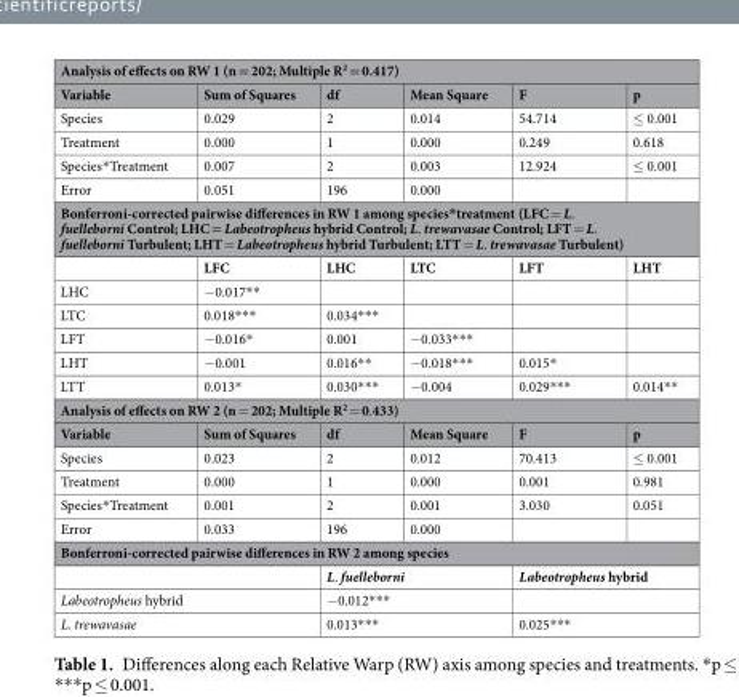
<table><thead><tr><td colspan="6">Analysis of effects on RW 1 (n = 202; Multiple R<sup>2</sup> = 0.417)</td></tr><tr><td>Variable</td><td>Sum of Squares</td><td>df</td><td>Mean Square</td><td>F</td><td>p</td></tr></thead><tbody><tr><td>Species</td><td>0.029</td><td>2</td><td>0.014</td><td>54.714</td><td>≤ 0.001</td></tr><tr><td>Treatment</td><td>0.000</td><td>1</td><td>0.000</td><td>0.249</td><td>0.618</td></tr><tr><td>Species*Treatment</td><td>0.007</td><td>2</td><td>0.003</td><td>12.924</td><td>≤ 0.001</td></tr><tr><td>Error</td><td>0.051</td><td>196</td><td>0.000</td><td></td><td></td></tr><tr><td colspan="6">Bonferroni-corrected pairwise differences in RW 1 among species*treatment (LFC = L. fuelleborni Control; LHC = Labeotropheus hybrid Control; L. trewavasae Control; LFT = L. fuelleborni Turbulent; LHT = Labeotropheus hybrid Turbulent; LTT = L. trewavasae Turbulent)</td></tr><tr><td></td><td>LFC</td><td>LHC</td><td>LTC</td><td>LFT</td><td>LHT</td></tr><tr><td>LHC</td><td>−0.017**</td><td></td><td></td><td></td><td></td></tr><tr><td>LTC</td><td>0.018***</td><td>0.034***</td><td></td><td></td><td></td></tr><tr><td>LFT</td><td>−0.016*</td><td>0.001</td><td>−0.033***</td><td></td><td></td></tr><tr><td>LHT</td><td>−0.001</td><td>0.016**</td><td>−0.018***</td><td>0.015*</td><td></td></tr><tr><td>LTT</td><td>0.013*</td><td>0.030***</td><td>−0.004</td><td>0.029***</td><td>0.014**</td></tr><tr><td colspan="6">Analysis of effects on RW 2 (n = 202; Multiple R<sup>2</sup> = 0.433)</td></tr><tr><td>Variable</td><td>Sum of Squares</td><td>df</td><td>Mean Square</td><td>F</td><td>p</td></tr><tr><td>Species</td><td>0.023</td><td>2</td><td>0.012</td><td>70.413</td><td>≤ 0.001</td></tr><tr><td>Treatment</td><td>0.000</td><td>1</td><td>0.000</td><td>0.001</td><td>0.981</td></tr><tr><td>Species*Treatment</td><td>0.001</td><td>2</td><td>0.001</td><td>3.030</td><td>0.051</td></tr><tr><td>Error</td><td>0.033</td><td>196</td><td>0.000</td><td></td><td></td></tr><tr><td colspan="6">Bonferroni-corrected pairwise differences in RW 2 among species</td></tr><tr><td colspan="2"></td><td colspan="2">L. fuelleborni</td><td colspan="2">Labeotropheus hybrid</td></tr><tr><td colspan="2">Labeotropheus hybrid</td><td colspan="2">−0.012***</td><td colspan="2"></td></tr><tr><td colspan="2">L. trewavasae</td><td colspan="2">0.013***</td><td colspan="2">0.025***</td></tr></tbody></table>